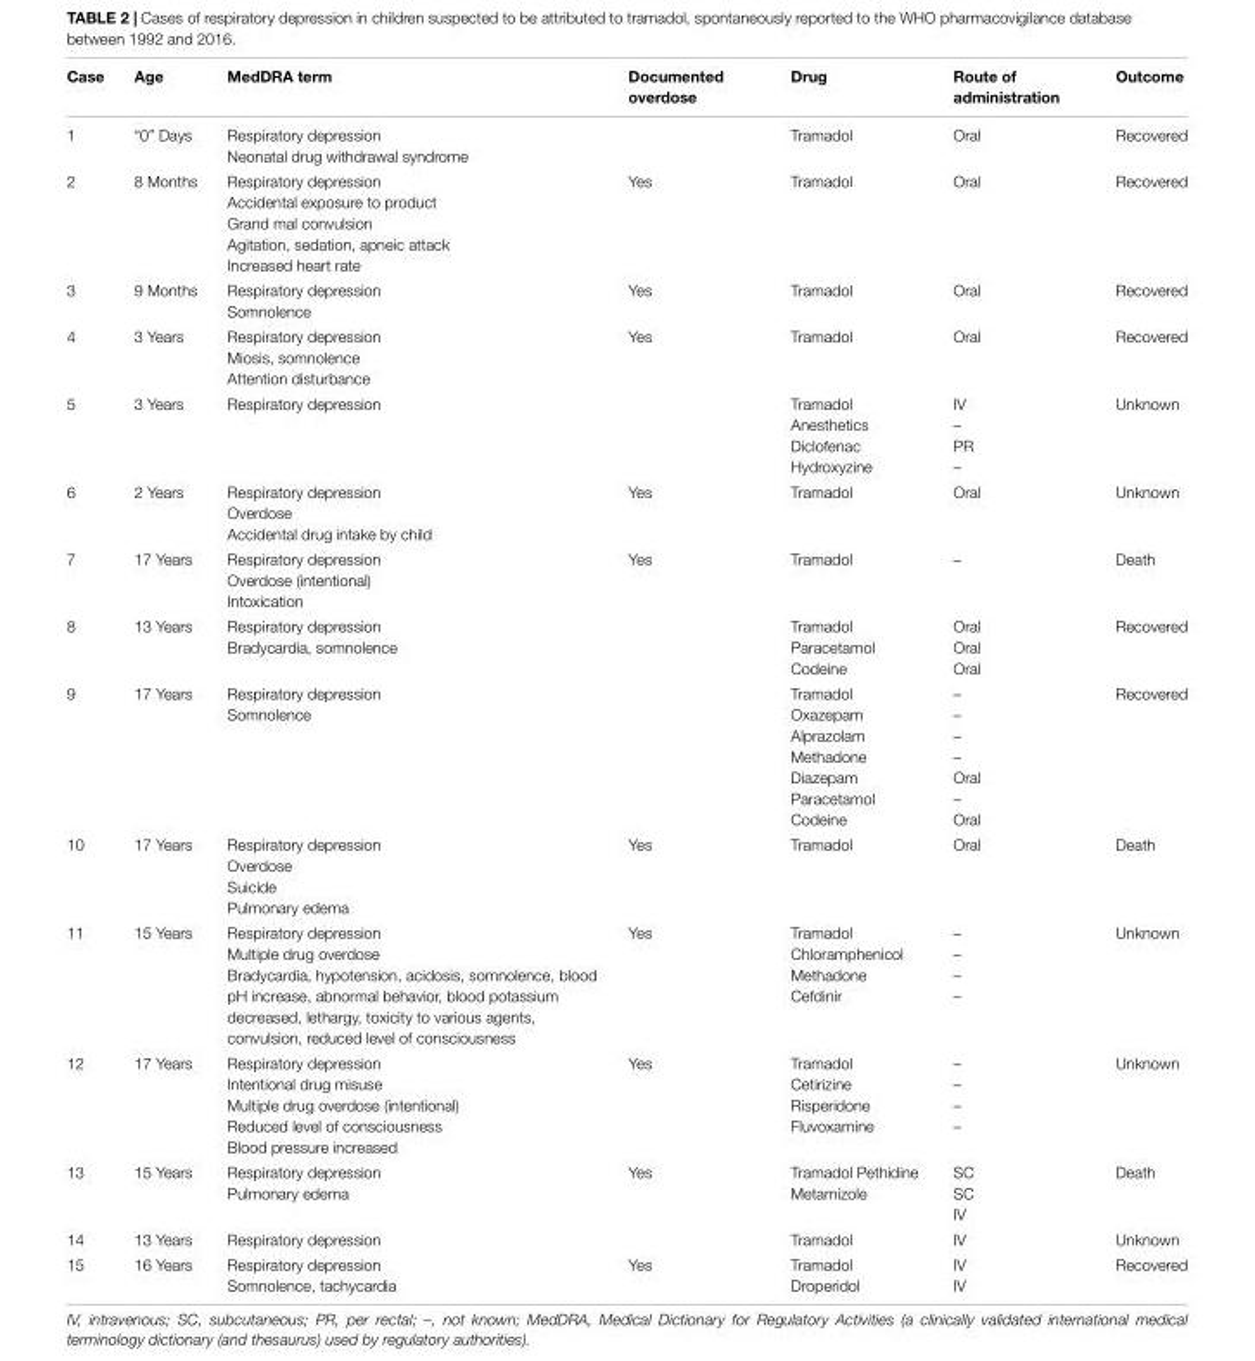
<table><thead><tr><td>Case</td><td>Age</td><td>MedDRA term</td><td>Documented overdose</td><td>Drug</td><td>Route of administration</td><td>Outcome</td></tr></thead><tbody><tr><td>1</td><td>“0” Days</td><td>Respiratory depression Neonatal drug withdrawal syndrome</td><td></td><td>Tramadol</td><td>Oral</td><td>Recovered</td></tr><tr><td>2</td><td>8 Months</td><td>Respiratory depression Accidental exposure to product Grand mal convulsion Agitation, sedation, apneic attack Increased heart rate</td><td>Yes</td><td>Tramadol</td><td>Oral</td><td>Recovered</td></tr><tr><td>3</td><td>9 Months</td><td>Respiratory depression Somnolence</td><td>Yes</td><td>Tramadol</td><td>Oral</td><td>Recovered</td></tr><tr><td>4</td><td>3 Years</td><td>Respiratory depression Miosis, somnolence Attention disturbance</td><td>Yes</td><td>Tramadol</td><td>Oral</td><td>Recovered</td></tr><tr><td>5</td><td>3 Years</td><td>Respiratory depression</td><td></td><td>Tramadol Anesthetics Diclofenac Hydroxyzine</td><td>IV – PR –</td><td>Unknown</td></tr><tr><td>6</td><td>2 Years</td><td>Respiratory depression Overdose Accidental drug intake by child</td><td>Yes</td><td>Tramadol</td><td>Oral</td><td>Unknown</td></tr><tr><td>7</td><td>17 Years</td><td>Respiratory depression Overdose (intentional) Intoxication</td><td>Yes</td><td>Tramadol</td><td>–</td><td>Death</td></tr><tr><td>8</td><td>13 Years</td><td>Respiratory depression Bradycardia, somnolence</td><td></td><td>Tramadol Paracetamol Codeine</td><td>Oral Oral Oral</td><td>Recovered</td></tr><tr><td>9</td><td>17 Years</td><td>Respiratory depression Somnolence</td><td></td><td>Tramadol Oxazepam Alprazolam Methadone Diazepam Paracetamol Codeine</td><td>– – – – Oral – Oral</td><td>Recovered</td></tr><tr><td>10</td><td>17 Years</td><td>Respiratory depression Overdose Suicide Pulmonary edema</td><td>Yes</td><td>Tramadol</td><td>Oral</td><td>Death</td></tr><tr><td>11</td><td>15 Years</td><td>Respiratory depression Multiple drug overdose Bradycardia, hypotension, acidosis, somnolence, blood pH increase, abnormal behavior, blood potassium decreased, lethargy, toxicity to various agents, convulsion, reduced level of consciousness</td><td>Yes</td><td>Tramadol Chloramphenicol Methadone Cefdinir</td><td>– – – –</td><td>Unknown</td></tr><tr><td>12</td><td>17 Years</td><td>Respiratory depression Intentional drug misuse Multiple drug overdose (intentional) Reduced level of consciousness Blood pressure increased</td><td>Yes</td><td>Tramadol Cetirizine Risperidone Fluvoxamine</td><td>– – – –</td><td>Unknown</td></tr><tr><td>13</td><td>15 Years</td><td>Respiratory depression Pulmonary edema</td><td>Yes</td><td>Tramadol Pethidine Metamizole</td><td>SC SC IV</td><td>Death</td></tr><tr><td>14</td><td>13 Years</td><td>Respiratory depression</td><td></td><td>Tramadol</td><td>IV</td><td>Unknown</td></tr><tr><td>15</td><td>16 Years</td><td>Respiratory depression Somnolence, tachycardia</td><td>Yes</td><td>Tramadol Droperidol</td><td>IV IV</td><td>Recovered</td></tr></tbody></table>